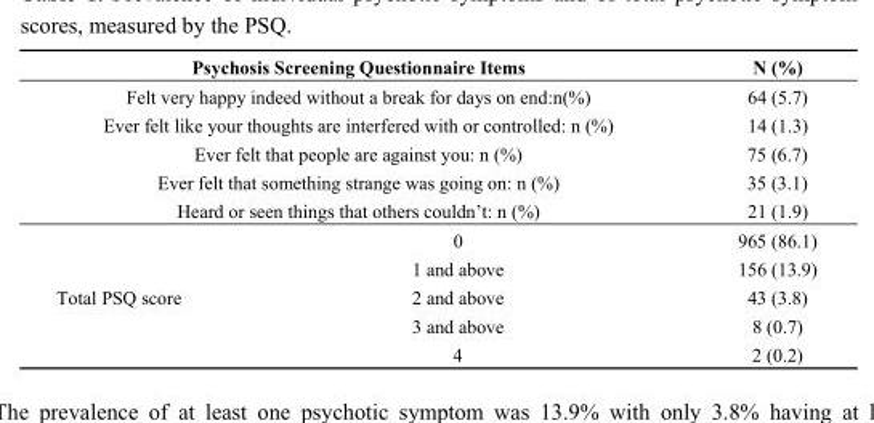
<table><thead><tr><td colspan="2">Psychosis Screening Questionnaire Items</td><td>N (%)</td></tr></thead><tbody><tr><td colspan="2">Felt very happy indeed without a break for days on end:n(%)</td><td>64 (5.7)</td></tr><tr><td colspan="2">Ever felt like your thoughts are interfered with or controlled: n (%)</td><td>14 (1.3)</td></tr><tr><td colspan="2">Ever felt that people are against you: n (%)</td><td>75 (6.7)</td></tr><tr><td colspan="2">Ever felt that something strange was going on: n (%)</td><td>35 (3.1)</td></tr><tr><td colspan="2">Heard or seen things that others couldn’t: n (%)</td><td>21 (1.9)</td></tr><tr><td rowspan="5">Total PSQ score</td><td>0</td><td>965 (86.1)</td></tr><tr><td>1 and above</td><td>156 (13.9)</td></tr><tr><td>2 and above</td><td>43 (3.8)</td></tr><tr><td>3 and above</td><td>8 (0.7)</td></tr><tr><td>4</td><td>2 (0.2)</td></tr></tbody></table>